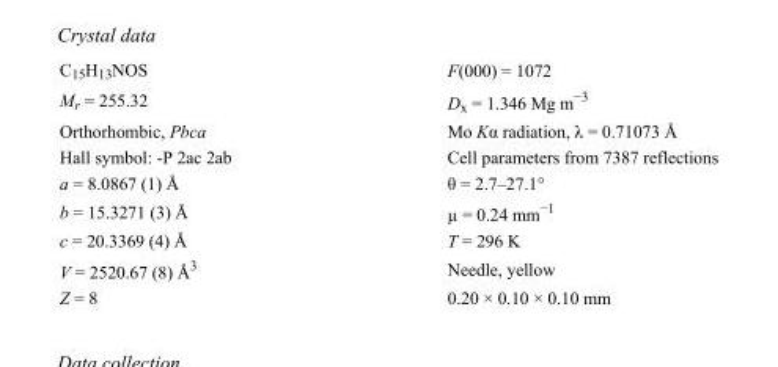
<table><tbody><tr><td>C<sub>15</sub>H<sub>13</sub>NOS</td><td>F(000) = 1072</td></tr><tr><td>M<sub>r</sub> = 255.32</td><td>D<sub>x</sub> = 1.346 Mg m<sup>−3</sup></td></tr><tr><td>Orthorhombic, Pbca</td><td>Mo Kα radiation, λ = 0.71073 Å</td></tr><tr><td>Hall symbol: -P 2ac 2ab</td><td>Cell parameters from 7387 reflections</td></tr><tr><td>a = 8.0867 (1) Å</td><td>θ = 2.7–27.1°</td></tr><tr><td>b = 15.3271 (3) Å</td><td>µ = 0.24 mm<sup>−1</sup></td></tr><tr><td>c = 20.3369 (4) Å</td><td>T = 296 K</td></tr><tr><td>V = 2520.67 (8) Å<sup>3</sup></td><td>Needle, yellow</td></tr><tr><td>Z = 8</td><td>0.20 × 0.10 × 0.10 mm</td></tr></tbody></table>